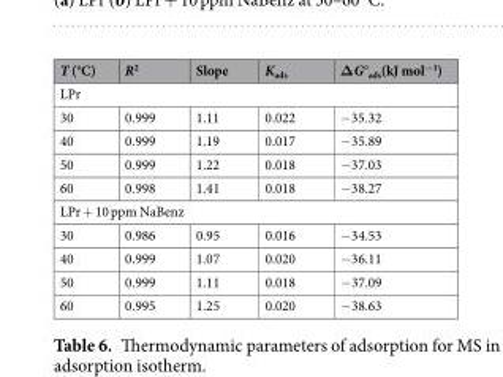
<table><thead><tr><td>T (°C)</td><td>R<sup>2</sup></td><td>Slope</td><td>K<sub>ads</sub></td><td>ΔG°<sub>ads</sub>(kJ mol<sup>−1</sup>)</td></tr></thead><tbody><tr><td colspan="5">LPr</td></tr><tr><td>30</td><td>0.999</td><td>1.11</td><td>0.022</td><td>−35.32</td></tr><tr><td>40</td><td>0.999</td><td>1.19</td><td>0.017</td><td>−35.89</td></tr><tr><td>50</td><td>0.999</td><td>1.22</td><td>0.018</td><td>−37.03</td></tr><tr><td>60</td><td>0.998</td><td>1.41</td><td>0.018</td><td>−38.27</td></tr><tr><td colspan="5">LPr + 10 ppm NaBenz</td></tr><tr><td>30</td><td>0.986</td><td>0.95</td><td>0.016</td><td>−34.53</td></tr><tr><td>40</td><td>0.999</td><td>1.07</td><td>0.020</td><td>−36.11</td></tr><tr><td>50</td><td>0.999</td><td>1.11</td><td>0.018</td><td>−37.09</td></tr><tr><td>60</td><td>0.995</td><td>1.25</td><td>0.020</td><td>−38.63</td></tr></tbody></table>